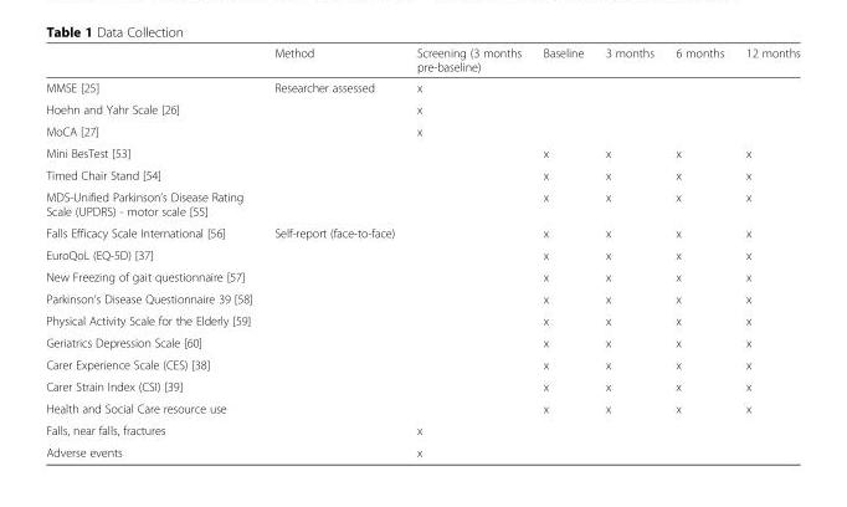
<table><thead><tr><td></td><td>Method</td><td>Screening (3 months pre-baseline)</td><td>Baseline</td><td>3 months</td><td>6 months</td><td>12 months</td></tr></thead><tbody><tr><td>MMSE [25]</td><td rowspan="6">Researcher assessed</td><td>x</td><td></td><td></td><td></td><td></td></tr><tr><td>Hoehn and Yahr Scale [26]</td><td>x</td><td></td><td></td><td></td><td></td></tr><tr><td>MoCA [27]</td><td>x</td><td></td><td></td><td></td><td></td></tr><tr><td>Mini BesTest [53]</td><td></td><td>x</td><td>x</td><td>x</td><td>x</td></tr><tr><td>Timed Chair Stand [54]</td><td></td><td>x</td><td>x</td><td>x</td><td>x</td></tr><tr><td>MDS-Unified Parkinson’s Disease Rating Scale (UPDRS) - motor scale [55]</td><td></td><td>x</td><td>x</td><td>x</td><td>x</td></tr><tr><td>Falls Efficacy Scale International [56]</td><td rowspan="11">Self-report (face-to-face)</td><td></td><td>x</td><td>x</td><td>x</td><td>x</td></tr><tr><td>EuroQoL (EQ-5D) [37]</td><td></td><td>x</td><td>x</td><td>x</td><td>x</td></tr><tr><td>New Freezing of gait questionnaire [57]</td><td></td><td>x</td><td>x</td><td>x</td><td>x</td></tr><tr><td>Parkinson’s Disease Questionnaire 39 [58]</td><td></td><td>x</td><td>x</td><td>x</td><td>x</td></tr><tr><td>Physical Activity Scale for the Elderly [59]</td><td></td><td>x</td><td>x</td><td>x</td><td>x</td></tr><tr><td>Geriatrics Depression Scale [60]</td><td></td><td>x</td><td>x</td><td>x</td><td>x</td></tr><tr><td>Carer Experience Scale (CES) [38]</td><td></td><td>x</td><td>x</td><td>x</td><td>x</td></tr><tr><td>Carer Strain Index (CSI) [39]</td><td></td><td>x</td><td>x</td><td>x</td><td>x</td></tr><tr><td>Health and Social Care resource use</td><td></td><td>x</td><td>x</td><td>x</td><td>x</td></tr><tr><td>Falls, near falls, fractures</td><td colspan="5">x</td></tr><tr><td>Adverse events</td><td colspan="5">x</td></tr></tbody></table>